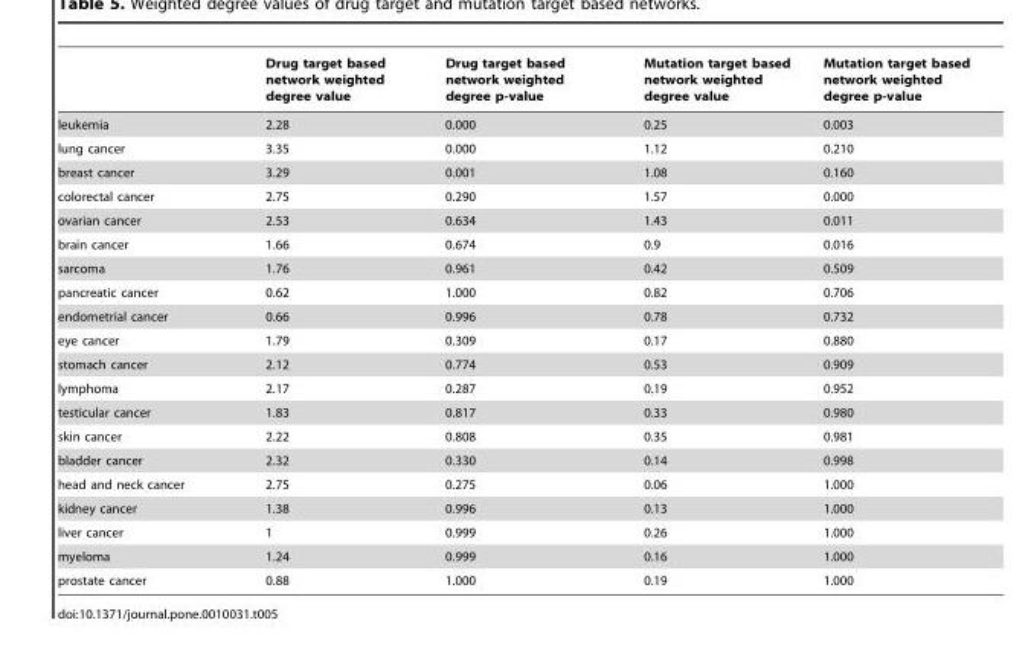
<table><thead><tr><td></td><td>Drug target based network weighted degree value</td><td>Drug target based network weighted degree p-value</td><td>Mutation target based network weighted degree value</td><td>Mutation target based network weighted degree p-value</td></tr></thead><tbody><tr><td>leukemia</td><td>2.28</td><td>0.000</td><td>0.25</td><td>0.003</td></tr><tr><td>lung cancer</td><td>3.35</td><td>0.000</td><td>1.12</td><td>0.210</td></tr><tr><td>breast cancer</td><td>3.29</td><td>0.001</td><td>1.08</td><td>0.160</td></tr><tr><td>colorectal cancer</td><td>2.75</td><td>0.290</td><td>1.57</td><td>0.000</td></tr><tr><td>ovarian cancer</td><td>2.53</td><td>0.634</td><td>1.43</td><td>0.011</td></tr><tr><td>brain cancer</td><td>1.66</td><td>0.674</td><td>0.9</td><td>0.016</td></tr><tr><td>sarcoma</td><td>1.76</td><td>0.961</td><td>0.42</td><td>0.509</td></tr><tr><td>pancreatic cancer</td><td>0.62</td><td>1.000</td><td>0.82</td><td>0.706</td></tr><tr><td>endometrial cancer</td><td>0.66</td><td>0.996</td><td>0.78</td><td>0.732</td></tr><tr><td>eye cancer</td><td>1.79</td><td>0.309</td><td>0.17</td><td>0.880</td></tr><tr><td>stomach cancer</td><td>2.12</td><td>0.774</td><td>0.53</td><td>0.909</td></tr><tr><td>lymphoma</td><td>2.17</td><td>0.287</td><td>0.19</td><td>0.952</td></tr><tr><td>testicular cancer</td><td>1.83</td><td>0.817</td><td>0.33</td><td>0.980</td></tr><tr><td>skin cancer</td><td>2.22</td><td>0.808</td><td>0.35</td><td>0.981</td></tr><tr><td>bladder cancer</td><td>2.32</td><td>0.330</td><td>0.14</td><td>0.998</td></tr><tr><td>head and neck cancer</td><td>2.75</td><td>0.275</td><td>0.06</td><td>1.000</td></tr><tr><td>kidney cancer</td><td>1.38</td><td>0.996</td><td>0.13</td><td>1.000</td></tr><tr><td>liver cancer</td><td>1</td><td>0.999</td><td>0.26</td><td>1.000</td></tr><tr><td>myeloma</td><td>1.24</td><td>0.999</td><td>0.16</td><td>1.000</td></tr><tr><td>prostate cancer</td><td>0.88</td><td>1.000</td><td>0.19</td><td>1.000</td></tr></tbody></table>